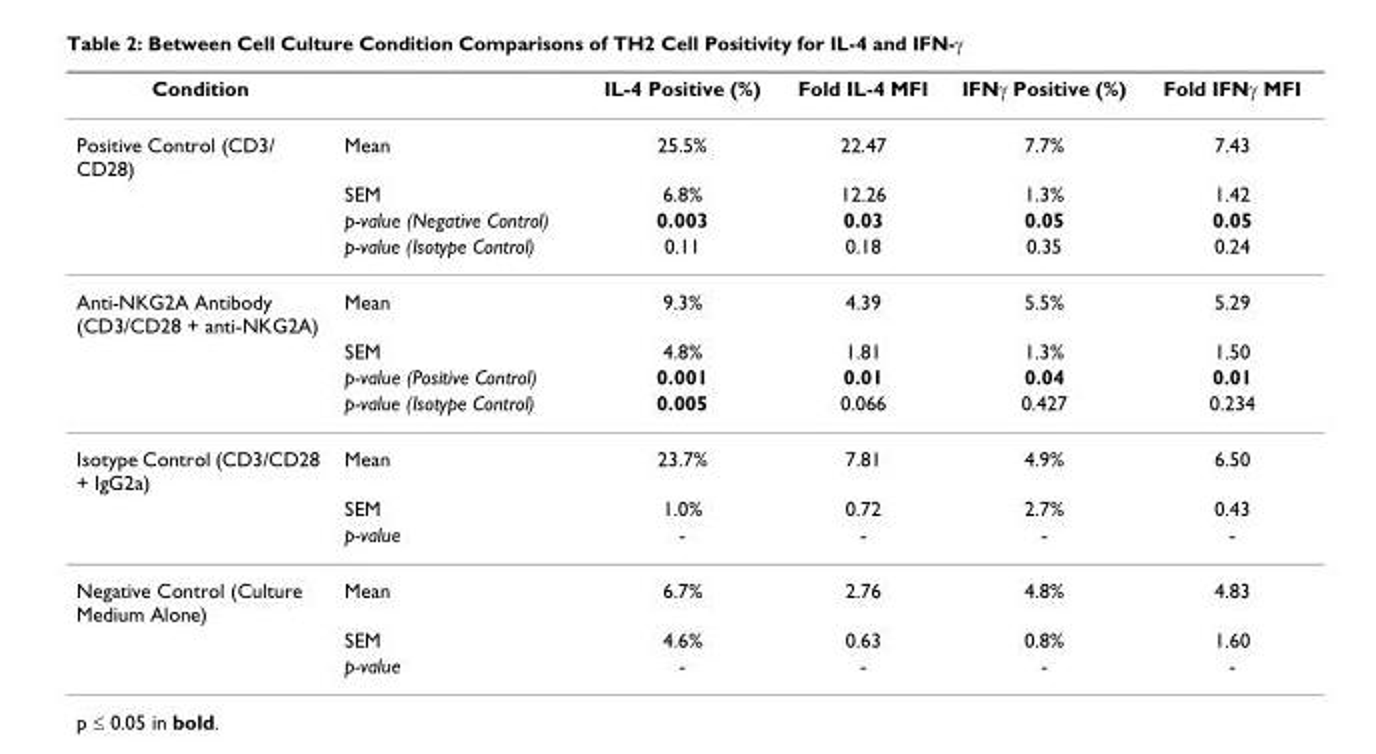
<table><thead><tr><td>Condition</td><td></td><td>IL-4 Positive (%)</td><td>Fold IL-4 MFI</td><td>IFNγ Positive (%)</td><td>Fold IFNγ MFI</td></tr></thead><tbody><tr><td rowspan="4">Positive Control (CD3/ CD28)</td><td>Mean</td><td>25.5%</td><td>22.47</td><td>7.7%</td><td>7.43</td></tr><tr><td>SEM</td><td>6.8%</td><td>12.26</td><td>1.3%</td><td>1.42</td></tr><tr><td>p-value (Negative Control)</td><td>0.003</td><td>0.03</td><td>0.05</td><td>0.05</td></tr><tr><td>p-value (Isotype Control)</td><td>0.11</td><td>0.18</td><td>0.35</td><td>0.24</td></tr><tr><td rowspan="4">Anti-NKG2A Antibody (CD3/CD28 + anti-NKG2A)</td><td>Mean</td><td>9.3%</td><td>4.39</td><td>5.5%</td><td>5.29</td></tr><tr><td>SEM</td><td>4.8%</td><td>1.81</td><td>1.3%</td><td>1.50</td></tr><tr><td>p-value (Positive Control)</td><td>0.001</td><td>0.01</td><td>0.04</td><td>0.01</td></tr><tr><td>p-value (Isotype Control)</td><td>0.005</td><td>0.066</td><td>0.427</td><td>0.234</td></tr><tr><td rowspan="3">Isotype Control (CD3/CD28 + IgG2a)</td><td>Mean</td><td>23.7%</td><td>7.81</td><td>4.9%</td><td>6.50</td></tr><tr><td>SEM</td><td>1.0%</td><td>0.72</td><td>2.7%</td><td>0.43</td></tr><tr><td>p-value</td><td>-</td><td>-</td><td>-</td><td>-</td></tr><tr><td rowspan="3">Negative Control (Culture Medium Alone)</td><td>Mean</td><td>6.7%</td><td>2.76</td><td>4.8%</td><td>4.83</td></tr><tr><td>SEM</td><td>4.6%</td><td>0.63</td><td>0.8%</td><td>1.60</td></tr><tr><td>p-value</td><td>-</td><td>-</td><td>-</td><td>-</td></tr></tbody></table>